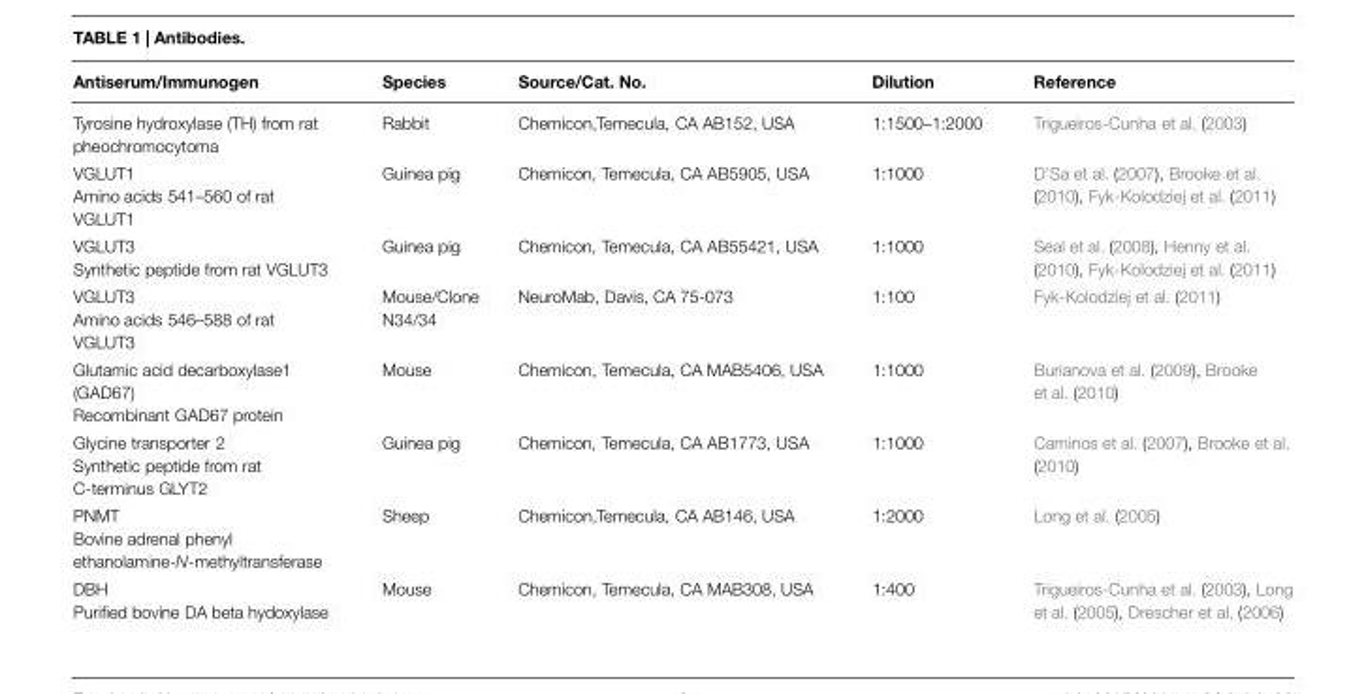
<table><thead><tr><td>Antiserum/Immunogen</td><td>Species</td><td>Source/Cat. No.</td><td>Dilution</td><td>Reference</td></tr></thead><tbody><tr><td>Tyrosine hydroxylase (TH) from rat pheochromocytoma</td><td>Rabbit</td><td>Chemicon,Temecula, CA AB152, USA</td><td>1:1500–1:2000</td><td>Trigueiros-Cunha et al. (2003)</td></tr><tr><td>VGLUT1 Amino acids 541–560 of rat VGLUT1</td><td>Guinea pig</td><td>Chemicon, Temecula, CA AB5905, USA</td><td>1:1000</td><td>D’Sa et al. (2007), Brooke et al. (2010), Fyk-Kolodziej et al. (2011)</td></tr><tr><td>VGLUT3 Synthetic peptide from rat VGLUT3</td><td>Guinea pig</td><td>Chemicon, Temecula, CA AB55421, USA</td><td>1:1000</td><td>Seal et al. (2008), Henny et al. (2010), Fyk-Kolodziej et al. (2011)</td></tr><tr><td>VGLUT3 Amino acids 546–588 of rat VGLUT3</td><td>Mouse/Clone N34/34</td><td>NeuroMab, Davis, CA 75-073</td><td>1:100</td><td>Fyk-Kolodziej et al. (2011)</td></tr><tr><td>Glutamic acid decarboxylase1 (GAD67) Recombinant GAD67 protein</td><td>Mouse</td><td>Chemicon, Temecula, CA MAB5406, USA</td><td>1:1000</td><td>Burianova et al. (2009), Brooke et al. (2010)</td></tr><tr><td>Glycine transporter 2 Synthetic peptide from rat C-terminus GLYT2</td><td>Guinea pig</td><td>Chemicon, Temecula, CA AB1773, USA</td><td>1:1000</td><td>Caminos et al. (2007), Brooke et al. (2010)</td></tr><tr><td>PNMT Bovine adrenal phenyl ethanolamine-N-methyltransferase</td><td>Sheep</td><td>Chemicon,Temecula, CA AB146, USA</td><td>1:2000</td><td>Long et al. (2005)</td></tr><tr><td>DBH Purified bovine DA beta hydoxylase</td><td>Mouse</td><td>Chemicon, Temecula, CA MAB308, USA</td><td>1:400</td><td>Trigueiros-Cunha et al. (2003), Long et al. (2005), Drescher et al. (2006)</td></tr></tbody></table>